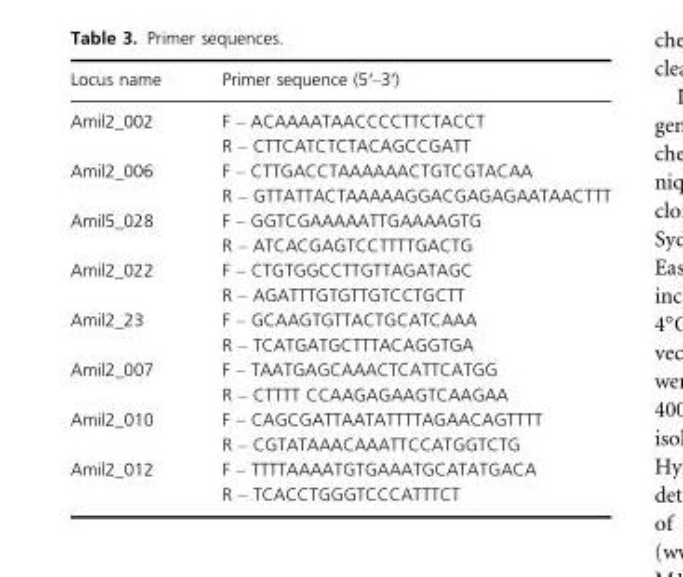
<table><thead><tr><td>Locus name</td><td>Primer sequence (5′–3′)</td></tr></thead><tbody><tr><td rowspan="2">Amil2_002</td><td>F – ACAAAATAACCCCTTCTACCT</td></tr><tr><td>R – CTTCATCTCTACAGCCGATT</td></tr><tr><td rowspan="2">Amil2_006</td><td>F – CTTGACCTAAAAAACTGTCGTACAA</td></tr><tr><td>R – GTTATTACTAAAAAGGACGAGAGAATAACTTT</td></tr><tr><td rowspan="2">Amil5_028</td><td>F – GGTCGAAAAATTGAAAAGTG</td></tr><tr><td>R – ATCACGAGTCCTTTTGACTG</td></tr><tr><td rowspan="2">Amil2_022</td><td>F – CTGTGGCCTTGTTAGATAGC</td></tr><tr><td>R – AGATTTGTGTTGTCCTGCTT</td></tr><tr><td rowspan="2">Amil2_23</td><td>F – GCAAGTGTTACTGCATCAAA</td></tr><tr><td>R – TCATGATGCTTTACAGGTGA</td></tr><tr><td rowspan="2">Amil2_007</td><td>F – TAATGAGCAAACTCATTCATGG</td></tr><tr><td>R – CTTTT CCAAGAGAAGTCAAGAA</td></tr><tr><td rowspan="2">Amil2_010</td><td>F – CAGCGATTAATATTTTAGAACAGTTTT</td></tr><tr><td>R – CGTATAAACAAATTCCATGGTCTG</td></tr><tr><td rowspan="2">Amil2_012</td><td>F – TTTTAAAATGTGAAATGCATATGACA</td></tr><tr><td>R – TCACCTGGGTCCCATTTCT</td></tr></tbody></table>